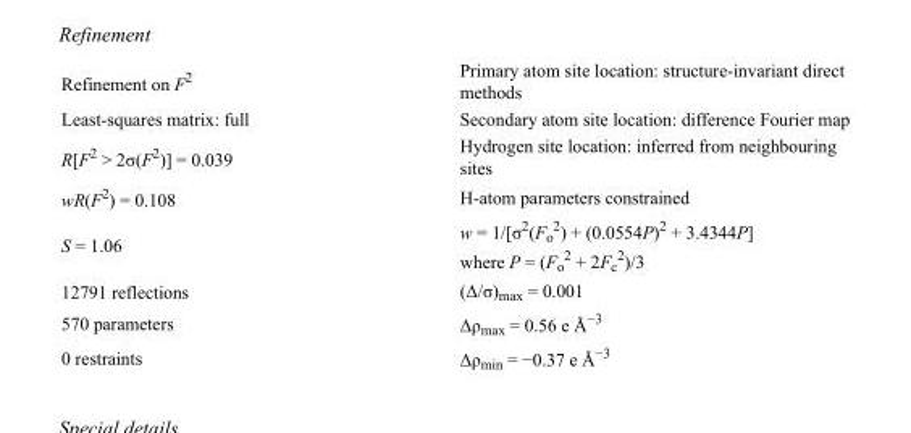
<table><tbody><tr><td>Refinement on F<sup>2</sup></td><td>Primary atom site location: structure-invariant direct methods</td></tr><tr><td>Least-squares matrix: full</td><td>Secondary atom site location: difference Fourier map</td></tr><tr><td>R[F<sup>2</sup> &gt; 2σ(F<sup>2</sup>)] = 0.039</td><td>Hydrogen site location: inferred from neighbouring sites</td></tr><tr><td>wR(F<sup>2</sup>) = 0.108</td><td>H-atom parameters constrained</td></tr><tr><td>S = 1.06</td><td>w = 1/[σ<sup>2</sup>(F<sub>o</sub> <sup>2</sup>) + (0.0554P)<sup>2</sup> + 3.4344P] where P = (F<sub>o</sub> <sup>2</sup> + 2F<sub>c</sub> <sup>2</sup>)/3</td></tr><tr><td>12791 reflections</td><td>(Δ/σ)<sub>max</sub> = 0.001</td></tr><tr><td>570 parameters</td><td>Δρ<sub>max</sub> = 0.56 e Å<sup>−3</sup></td></tr><tr><td>0 restraints</td><td>Δρ<sub>min</sub> = −0.37 e Å<sup>−3</sup></td></tr></tbody></table>